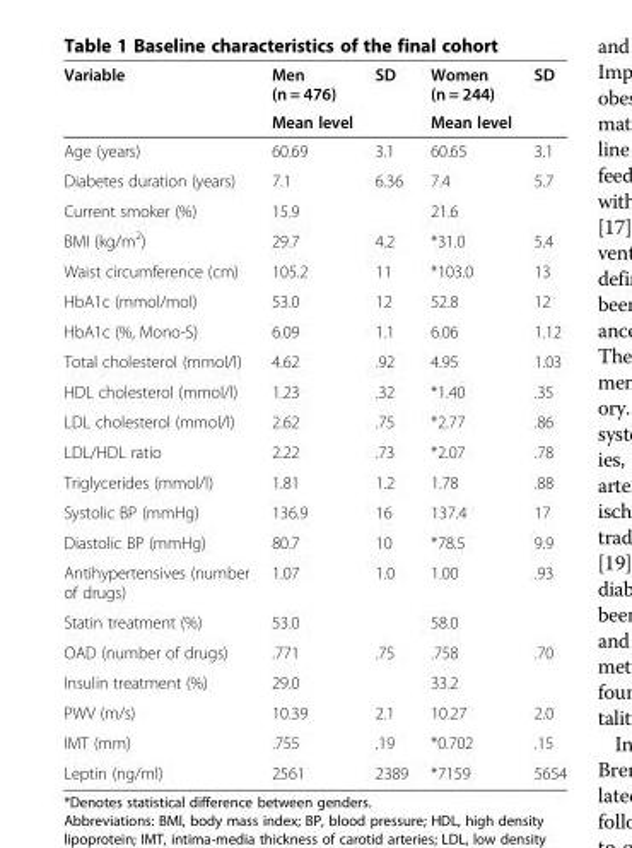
<table><thead><tr><td rowspan="2">Variable</td><td rowspan="2">Men (n = 476) Mean level</td><td rowspan="2">SD</td><td rowspan="2">Women (n = 244) Mean level</td><td rowspan="2">SD</td></tr><tr></tr></thead><tbody><tr><td>Age (years)</td><td>60.69</td><td>3.1</td><td>60.65</td><td>3.1</td></tr><tr><td>Diabetes duration (years)</td><td>7.1</td><td>6.36</td><td>7.4</td><td>5.7</td></tr><tr><td>Current smoker (%)</td><td>15.9</td><td></td><td>21.6</td><td></td></tr><tr><td>BMI (kg/m<sup>2</sup>)</td><td>29.7</td><td>4.2</td><td>*31.0</td><td>5.4</td></tr><tr><td>Waist circumference (cm)</td><td>105.2</td><td>11</td><td>*103.0</td><td>13</td></tr><tr><td>HbA1c (mmol/mol)</td><td>53.0</td><td>12</td><td>52.8</td><td>12</td></tr><tr><td>HbA1c (%, Mono-S)</td><td>6.09</td><td>1.1</td><td>6.06</td><td>1.12</td></tr><tr><td>Total cholesterol (mmol/l)</td><td>4.62</td><td>.92</td><td>4.95</td><td>1.03</td></tr><tr><td>HDL cholesterol (mmol/l)</td><td>1.23</td><td>.32</td><td>*1.40</td><td>.35</td></tr><tr><td>LDL cholesterol (mmol/l)</td><td>2.62</td><td>.75</td><td>*2.77</td><td>.86</td></tr><tr><td>LDL/HDL ratio</td><td>2.22</td><td>.73</td><td>*2.07</td><td>.78</td></tr><tr><td>Triglycerides (mmol/l)</td><td>1.81</td><td>1.2</td><td>1.78</td><td>.88</td></tr><tr><td>Systolic BP (mmHg)</td><td>136.9</td><td>16</td><td>137.4</td><td>17</td></tr><tr><td>Diastolic BP (mmHg)</td><td>80.7</td><td>10</td><td>*78.5</td><td>9.9</td></tr><tr><td>Antihypertensives (number of drugs)</td><td>1.07</td><td>1.0</td><td>1.00</td><td>.93</td></tr><tr><td>Statin treatment (%)</td><td>53.0</td><td></td><td>58.0</td><td></td></tr><tr><td>OAD (number of drugs)</td><td>.771</td><td>.75</td><td>.758</td><td>.70</td></tr><tr><td>Insulin treatment (%)</td><td>29.0</td><td></td><td>33.2</td><td></td></tr><tr><td>PWV (m/s)</td><td>10.39</td><td>2.1</td><td>10.27</td><td>2.0</td></tr><tr><td>IMT (mm)</td><td>.755</td><td>.19</td><td>*0.702</td><td>.15</td></tr><tr><td>Leptin (ng/ml)</td><td>2561</td><td>2389</td><td>*7159</td><td>5654</td></tr></tbody></table>